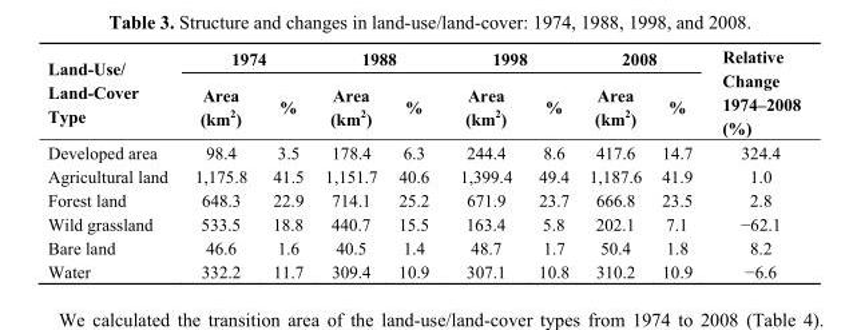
<table><thead><tr><td rowspan="2">Land-Use/ Land-Cover Type</td><td colspan="2">1974</td><td colspan="2">1988</td><td colspan="2">1998</td><td colspan="2">2008</td><td rowspan="2">Relative Change 1974–2008 (%)</td></tr><tr><td>Area (km<sup>2</sup>)</td><td>%</td><td>Area (km<sup>2</sup>)</td><td>%</td><td>Area (km<sup>2</sup>)</td><td>%</td><td>Area (km<sup>2</sup>)</td><td>%</td></tr></thead><tbody><tr><td>Developed area</td><td>98.4</td><td>3.5</td><td>178.4</td><td>6.3</td><td>244.4</td><td>8.6</td><td>417.6</td><td>14.7</td><td>324.4</td></tr><tr><td>Agricultural land</td><td>1,175.8</td><td>41.5</td><td>1,151.7</td><td>40.6</td><td>1,399.4</td><td>49.4</td><td>1,187.6</td><td>41.9</td><td>1.0</td></tr><tr><td>Forest land</td><td>648.3</td><td>22.9</td><td>714.1</td><td>25.2</td><td>671.9</td><td>23.7</td><td>666.8</td><td>23.5</td><td>2.8</td></tr><tr><td>Wild grassland</td><td>533.5</td><td>18.8</td><td>440.7</td><td>15.5</td><td>163.4</td><td>5.8</td><td>202.1</td><td>7.1</td><td>−62.1</td></tr><tr><td>Bare land</td><td>46.6</td><td>1.6</td><td>40.5</td><td>1.4</td><td>48.7</td><td>1.7</td><td>50.4</td><td>1.8</td><td>8.2</td></tr><tr><td>Water</td><td>332.2</td><td>11.7</td><td>309.4</td><td>10.9</td><td>307.1</td><td>10.8</td><td>310.2</td><td>10.9</td><td>−6.6</td></tr></tbody></table>